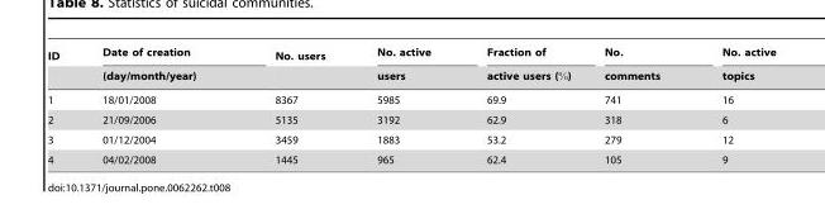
<table><thead><tr><td rowspan="2">ID</td><td rowspan="2">Date of creation (day/month/year)</td><td rowspan="2">No. users</td><td rowspan="2">No. active users</td><td rowspan="2">Fraction of active users (%)</td><td rowspan="2">No. comments</td><td rowspan="2">No. active topics</td></tr><tr></tr></thead><tbody><tr><td>1</td><td>18/01/2008</td><td>8367</td><td>5985</td><td>69.9</td><td>741</td><td>16</td></tr><tr><td>2</td><td>21/09/2006</td><td>5135</td><td>3192</td><td>62.9</td><td>318</td><td>6</td></tr><tr><td>3</td><td>01/12/2004</td><td>3459</td><td>1883</td><td>53.2</td><td>279</td><td>12</td></tr><tr><td>4</td><td>04/02/2008</td><td>1445</td><td>965</td><td>62.4</td><td>105</td><td>9</td></tr></tbody></table>